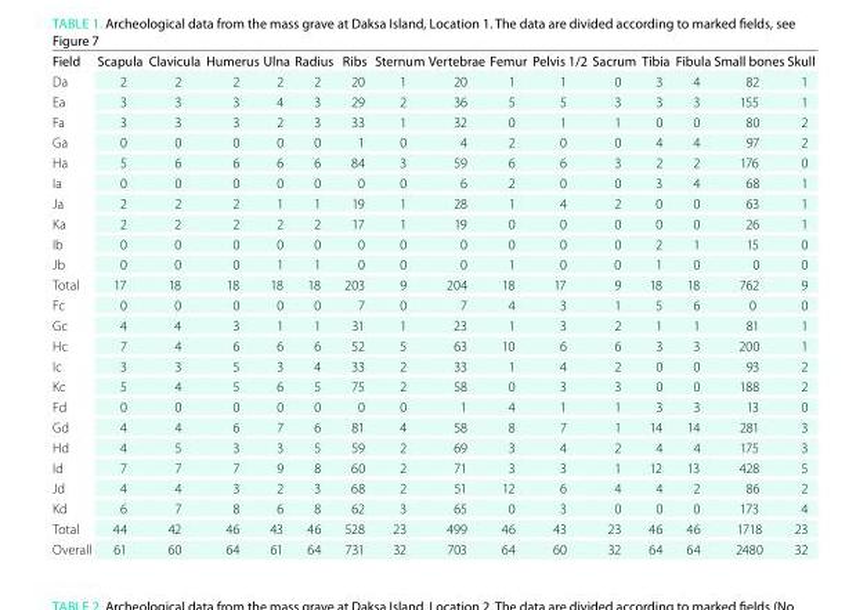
<table><thead><tr><td>Field</td><td>Scapula</td><td>Clavicula</td><td>humerus</td><td>Ulna</td><td>radius</td><td>ribs</td><td>Sternum</td><td>Vertebrae</td><td>Femur</td><td>Pelvis 1/2</td><td>Sacrum</td><td>tibia</td><td>Fibula</td><td>Small bones</td><td>Skull</td></tr></thead><tbody><tr><td>Da</td><td>2</td><td>2</td><td>2</td><td>2</td><td>2</td><td>20</td><td>1</td><td>20</td><td>1</td><td>1</td><td>0</td><td>3</td><td>4</td><td>82</td><td>1</td></tr><tr><td>Ea</td><td>3</td><td>3</td><td>3</td><td>4</td><td>3</td><td>29</td><td>2</td><td>36</td><td>5</td><td>5</td><td>3</td><td>3</td><td>3</td><td>155</td><td>1</td></tr><tr><td>Fa</td><td>3</td><td>3</td><td>3</td><td>2</td><td>3</td><td>33</td><td>1</td><td>32</td><td>0</td><td>1</td><td>1</td><td>0</td><td>0</td><td>80</td><td>2</td></tr><tr><td>Ga</td><td>0</td><td>0</td><td>0</td><td>0</td><td>0</td><td>1</td><td>0</td><td>4</td><td>2</td><td>0</td><td>0</td><td>4</td><td>4</td><td>97</td><td>2</td></tr><tr><td>Ha</td><td>5</td><td>6</td><td>6</td><td>6</td><td>6</td><td>84</td><td>3</td><td>59</td><td>6</td><td>6</td><td>3</td><td>2</td><td>2</td><td>176</td><td>0</td></tr><tr><td>Ia</td><td>0</td><td>0</td><td>0</td><td>0</td><td>0</td><td>0</td><td>0</td><td>6</td><td>2</td><td>0</td><td>0</td><td>3</td><td>4</td><td>68</td><td>1</td></tr><tr><td>Ja</td><td>2</td><td>2</td><td>2</td><td>1</td><td>1</td><td>19</td><td>1</td><td>28</td><td>1</td><td>4</td><td>2</td><td>0</td><td>0</td><td>63</td><td>1</td></tr><tr><td>Ka</td><td>2</td><td>2</td><td>2</td><td>2</td><td>2</td><td>17</td><td>1</td><td>19</td><td>0</td><td>0</td><td>0</td><td>0</td><td>0</td><td>26</td><td>1</td></tr><tr><td>Ib</td><td>0</td><td>0</td><td>0</td><td>0</td><td>0</td><td>0</td><td>0</td><td>0</td><td>0</td><td>0</td><td>0</td><td>2</td><td>1</td><td>15</td><td>0</td></tr><tr><td>Jb</td><td>0</td><td>0</td><td>0</td><td>1</td><td>1</td><td>0</td><td>0</td><td>0</td><td>1</td><td>0</td><td>0</td><td>1</td><td>0</td><td>0</td><td>0</td></tr><tr><td>Total</td><td>17</td><td>18</td><td>18</td><td>18</td><td>18</td><td>203</td><td>9</td><td>204</td><td>18</td><td>17</td><td>9</td><td>18</td><td>18</td><td>762</td><td>9</td></tr><tr><td>Fc</td><td>0</td><td>0</td><td>0</td><td>0</td><td>0</td><td>7</td><td>0</td><td>7</td><td>4</td><td>3</td><td>1</td><td>5</td><td>6</td><td>0</td><td>0</td></tr><tr><td>Gc</td><td>4</td><td>4</td><td>3</td><td>1</td><td>1</td><td>31</td><td>1</td><td>23</td><td>1</td><td>3</td><td>2</td><td>1</td><td>1</td><td>81</td><td>1</td></tr><tr><td>Hc</td><td>7</td><td>4</td><td>6</td><td>6</td><td>6</td><td>52</td><td>5</td><td>63</td><td>10</td><td>6</td><td>6</td><td>3</td><td>3</td><td>200</td><td>1</td></tr><tr><td>Ic</td><td>3</td><td>3</td><td>5</td><td>3</td><td>4</td><td>33</td><td>2</td><td>33</td><td>1</td><td>4</td><td>2</td><td>0</td><td>0</td><td>93</td><td>2</td></tr><tr><td>Kc</td><td>5</td><td>4</td><td>5</td><td>6</td><td>5</td><td>75</td><td>2</td><td>58</td><td>0</td><td>3</td><td>3</td><td>0</td><td>0</td><td>188</td><td>2</td></tr><tr><td>Fd</td><td>0</td><td>0</td><td>0</td><td>0</td><td>0</td><td>0</td><td>0</td><td>1</td><td>4</td><td>1</td><td>1</td><td>3</td><td>3</td><td>13</td><td>0</td></tr><tr><td>Gd</td><td>4</td><td>4</td><td>6</td><td>7</td><td>6</td><td>81</td><td>4</td><td>58</td><td>8</td><td>7</td><td>1</td><td>14</td><td>14</td><td>281</td><td>3</td></tr><tr><td>Hd</td><td>4</td><td>5</td><td>3</td><td>3</td><td>5</td><td>59</td><td>2</td><td>69</td><td>3</td><td>4</td><td>2</td><td>4</td><td>4</td><td>175</td><td>3</td></tr><tr><td>Id</td><td>7</td><td>7</td><td>7</td><td>9</td><td>8</td><td>60</td><td>2</td><td>71</td><td>3</td><td>3</td><td>1</td><td>12</td><td>13</td><td>428</td><td>5</td></tr><tr><td>Jd</td><td>4</td><td>4</td><td>3</td><td>2</td><td>3</td><td>68</td><td>2</td><td>51</td><td>12</td><td>6</td><td>4</td><td>4</td><td>2</td><td>86</td><td>2</td></tr><tr><td>Kd</td><td>6</td><td>7</td><td>8</td><td>6</td><td>8</td><td>62</td><td>3</td><td>65</td><td>0</td><td>3</td><td>0</td><td>0</td><td>0</td><td>173</td><td>4</td></tr><tr><td>Total</td><td>44</td><td>42</td><td>46</td><td>43</td><td>46</td><td>528</td><td>23</td><td>499</td><td>46</td><td>43</td><td>23</td><td>46</td><td>46</td><td>1718</td><td>23</td></tr><tr><td>Overall</td><td>61</td><td>60</td><td>64</td><td>61</td><td>64</td><td>731</td><td>32</td><td>703</td><td>64</td><td>60</td><td>32</td><td>64</td><td>64</td><td>2480</td><td>32</td></tr></tbody></table>